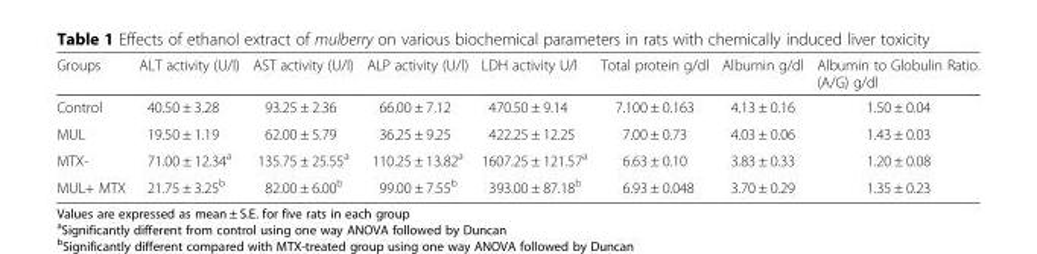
<table><thead><tr><td>Groups</td><td>ALT activity (U/l)</td><td>AST activity (U/l)</td><td>ALP activity (U/l)</td><td>LDH activity U/l</td><td>Total protein g/dl</td><td>Albumin g/dl</td><td>Albumin to Globulin Ratio. (A/G) g/dl</td></tr></thead><tbody><tr><td>Control</td><td>40.50 ± 3.28</td><td>93.25 ± 2.36</td><td>66.00 ± 7.12</td><td>470.50 ± 9.14</td><td>7.100 ± 0.163</td><td>4.13 ± 0.16</td><td>1.50 ± 0.04</td></tr><tr><td>MUL</td><td>19.50 ± 1.19</td><td>62.00 ± 5.79</td><td>36.25 ± 9.25</td><td>422.25 ± 12.25</td><td>7.00 ± 0.73</td><td>4.03 ± 0.06</td><td>1.43 ± 0.03</td></tr><tr><td>MTX-</td><td>71.00 ± 12.34<sup>a</sup></td><td>135.75 ± 25.55<sup>a</sup></td><td>110.25 ± 13.82<sup>a</sup></td><td>1607.25 ± 121.57<sup>a</sup></td><td>6.63 ± 0.10</td><td>3.83 ± 0.33</td><td>1.20 ± 0.08</td></tr><tr><td>MUL+ MTX</td><td>21.75 ± 3.25<sup>b</sup></td><td>82.00 ± 6.00<sup>b</sup></td><td>99.00 ± 7.55<sup>b</sup></td><td>393.00 ± 87.18<sup>b</sup></td><td>6.93 ± 0.048</td><td>3.70 ± 0.29</td><td>1.35 ± 0.23</td></tr></tbody></table>